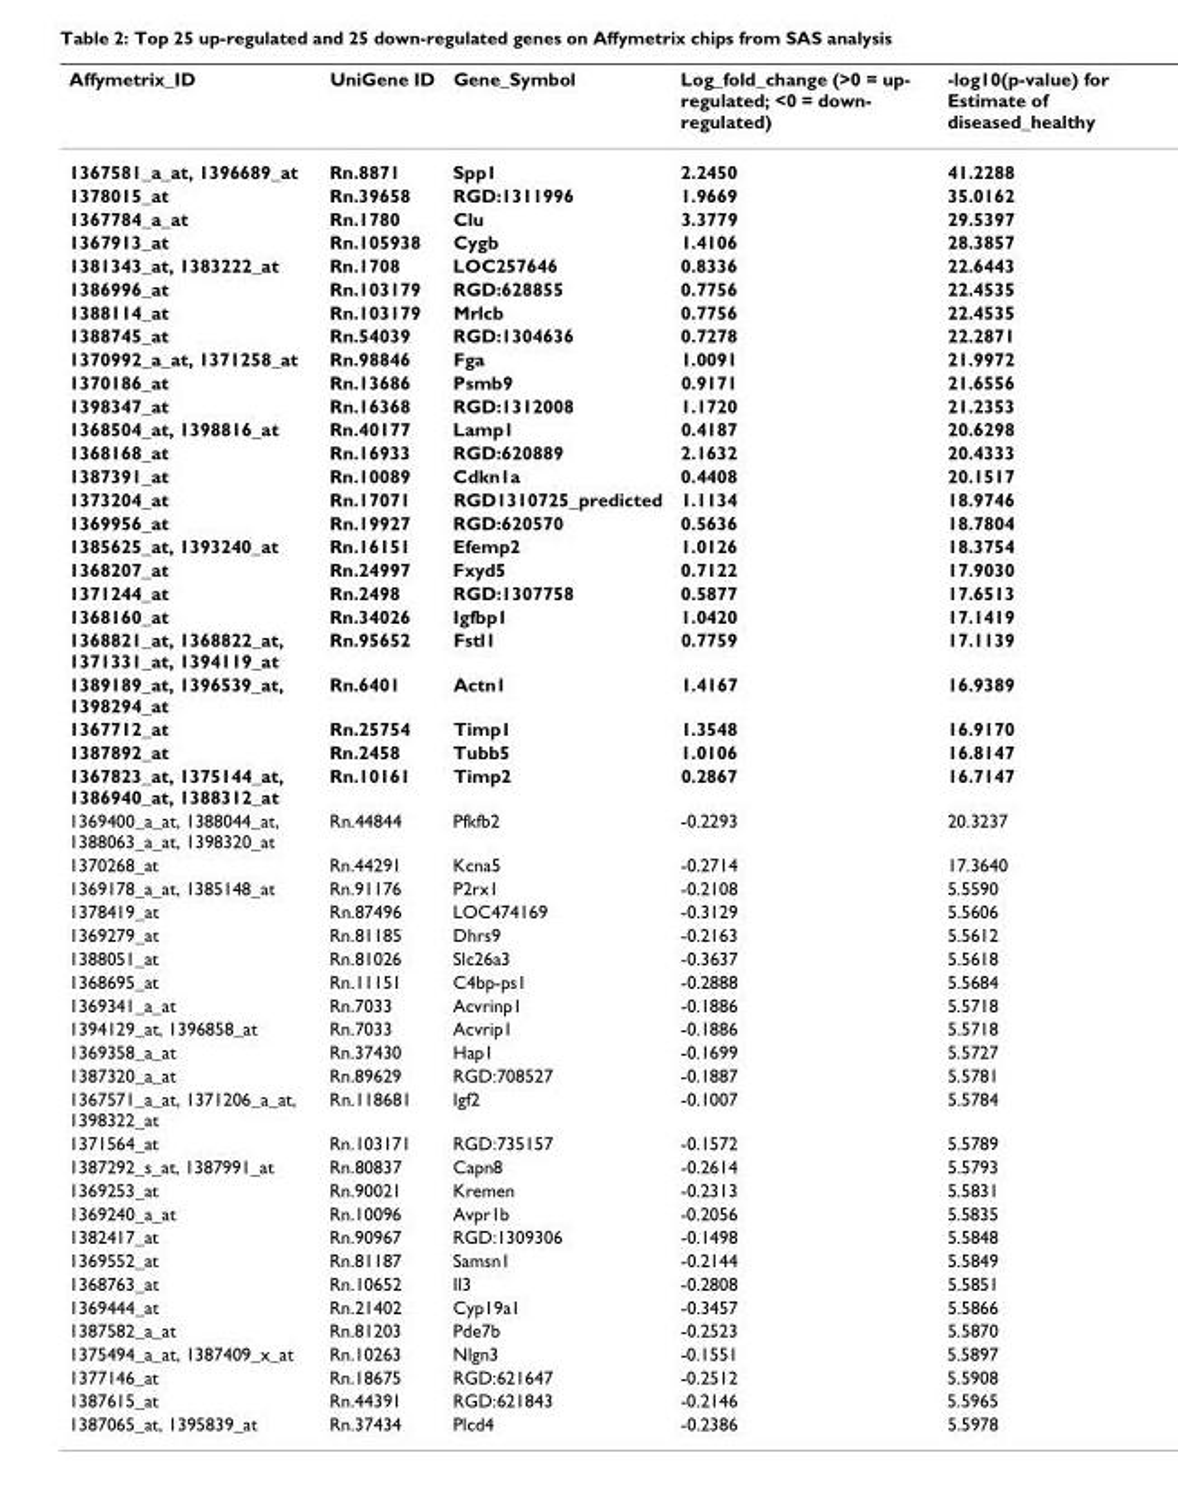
<table><thead><tr><td>Affymetrix_ID</td><td>UniGene ID</td><td>Gene_Symbol</td><td>Log_fold_change (&gt;0 = up- regulated; &lt;0 = down- regulated)</td><td>-log10(p-value) for Estimate of diseased_healthy</td></tr></thead><tbody><tr><td>1367581_a_at, 1396689_at</td><td>Rn.8871</td><td>Spp1</td><td>2.2450</td><td>41.2288</td></tr><tr><td>1378015_at</td><td>Rn.39658</td><td>RGD:1311996</td><td>1.9669</td><td>35.0162</td></tr><tr><td>1367784_a_at</td><td>Rn.1780</td><td>Clu</td><td>3.3779</td><td>29.5397</td></tr><tr><td>1367913_at</td><td>Rn.105938</td><td>Cygb</td><td>1.4106</td><td>28.3857</td></tr><tr><td>1381343_at, 1383222_at</td><td>Rn.1708</td><td>LOC257646</td><td>0.8336</td><td>22.6443</td></tr><tr><td>1386996_at</td><td>Rn.103179</td><td>RGD:628855</td><td>0.7756</td><td>22.4535</td></tr><tr><td>1388114_at</td><td>Rn.103179</td><td>Mrlcb</td><td>0.7756</td><td>22.4535</td></tr><tr><td>1388745_at</td><td>Rn.54039</td><td>RGD:1304636</td><td>0.7278</td><td>22.2871</td></tr><tr><td>1370992_a_at, 1371258_at</td><td>Rn.98846</td><td>Fga</td><td>1.0091</td><td>21.9972</td></tr><tr><td>1370186_at</td><td>Rn.13686</td><td>Psmb9</td><td>0.9171</td><td>21.6556</td></tr><tr><td>1398347_at</td><td>Rn.16368</td><td>RGD:1312008</td><td>1.1720</td><td>21.2353</td></tr><tr><td>1368504_at, 1398816_at</td><td>Rn.40177</td><td>Lamp1</td><td>0.4187</td><td>20.6298</td></tr><tr><td>1368168_at</td><td>Rn.16933</td><td>RGD:620889</td><td>2.1632</td><td>20.4333</td></tr><tr><td>1387391_at</td><td>Rn.10089</td><td>Cdkn1a</td><td>0.4408</td><td>20.1517</td></tr><tr><td>1373204_at</td><td>Rn.17071</td><td>RGD1310725_predicted</td><td>1.1134</td><td>18.9746</td></tr><tr><td>1369956_at</td><td>Rn.19927</td><td>RGD:620570</td><td>0.5636</td><td>18.7804</td></tr><tr><td>1385625_at, 1393240_at</td><td>Rn.16151</td><td>Efemp2</td><td>1.0126</td><td>18.3754</td></tr><tr><td>1368207_at</td><td>Rn.24997</td><td>Fxyd5</td><td>0.7122</td><td>17.9030</td></tr><tr><td>1371244_at</td><td>Rn.2498</td><td>RGD:1307758</td><td>0.5877</td><td>17.6513</td></tr><tr><td>1368160_at</td><td>Rn.34026</td><td>Igfbp1</td><td>1.0420</td><td>17.1419</td></tr><tr><td>1368821_at, 1368822_at, 1371331_at, 1394119_at</td><td>Rn.95652</td><td>Fstl1</td><td>0.7759</td><td>17.1139</td></tr><tr><td>1389189_at, 1396539_at, 1398294_at</td><td>Rn.6401</td><td>Actn1</td><td>1.4167</td><td>16.9389</td></tr><tr><td>1367712_at</td><td>Rn.25754</td><td>Timp1</td><td>1.3548</td><td>16.9170</td></tr><tr><td>1387892_at</td><td>Rn.2458</td><td>Tubb5</td><td>1.0106</td><td>16.8147</td></tr><tr><td>1367823_at, 1375144_at, 1386940_at, 1388312_at</td><td>Rn.10161</td><td>Timp2</td><td>0.2867</td><td>16.7147</td></tr><tr><td>1369400_a_at, 1388044_at, 1388063_a_at, 1398320_at</td><td>Rn.44844</td><td>Pfkfb2</td><td>-0.2293</td><td>20.3237</td></tr><tr><td>1370268_at</td><td>Rn.44291</td><td>Kcna5</td><td>-0.2714</td><td>17.3640</td></tr><tr><td>1369178_a_at, 1385148_at</td><td>Rn.91176</td><td>P2rx1</td><td>-0.2108</td><td>5.5590</td></tr><tr><td>1378419_at</td><td>Rn.87496</td><td>LOC474169</td><td>-0.3129</td><td>5.5606</td></tr><tr><td>1369279_at</td><td>Rn.81185</td><td>Dhrs9</td><td>-0.2163</td><td>5.5612</td></tr><tr><td>1388051_at</td><td>Rn.81026</td><td>Slc26a3</td><td>-0.3637</td><td>5.5618</td></tr><tr><td>1368695_at</td><td>Rn.11151</td><td>C4bp-ps1</td><td>-0.2888</td><td>5.5684</td></tr><tr><td>1369341_a_at</td><td>Rn.7033</td><td>Acvrinp1</td><td>-0.1886</td><td>5.5718</td></tr><tr><td>1394129_at, 1396858_at</td><td>Rn.7033</td><td>Acvrip1</td><td>-0.1886</td><td>5.5718</td></tr><tr><td>1369358_a_at</td><td>Rn.37430</td><td>Hap1</td><td>-0.1699</td><td>5.5727</td></tr><tr><td>1387320_a_at</td><td>Rn.89629</td><td>RGD:708527</td><td>-0.1887</td><td>5.5781</td></tr><tr><td>1367571_a_at, 1371206_a_at, 1398322_at</td><td>Rn.118681</td><td>Igf2</td><td>-0.1007</td><td>5.5784</td></tr><tr><td>1371564_at</td><td>Rn.103171</td><td>RGD:735157</td><td>-0.1572</td><td>5.5789</td></tr><tr><td>1387292_s_at, 1387991_at</td><td>Rn.80837</td><td>Capn8</td><td>-0.2614</td><td>5.5793</td></tr><tr><td>1369253_at</td><td>Rn.90021</td><td>Kremen</td><td>-0.2313</td><td>5.5831</td></tr><tr><td>1369240_a_at</td><td>Rn.10096</td><td>Avpr1b</td><td>-0.2056</td><td>5.5835</td></tr><tr><td>1382417_at</td><td>Rn.90967</td><td>RGD:1309306</td><td>-0.1498</td><td>5.5848</td></tr><tr><td>1369552_at</td><td>Rn.81187</td><td>Samsn1</td><td>-0.2144</td><td>5.5849</td></tr><tr><td>1368763_at</td><td>Rn.10652</td><td>Il3</td><td>-0.2808</td><td>5.5851</td></tr><tr><td>1369444_at</td><td>Rn.21402</td><td>Cyp19a1</td><td>-0.3457</td><td>5.5866</td></tr><tr><td>1387582_a_at</td><td>Rn.81203</td><td>Pde7b</td><td>-0.2523</td><td>5.5870</td></tr><tr><td>1375494_a_at, 1387409_x_at</td><td>Rn.10263</td><td>Nlgn3</td><td>-0.1551</td><td>5.5897</td></tr><tr><td>1377146_at</td><td>Rn.18675</td><td>RGD:621647</td><td>-0.2512</td><td>5.5908</td></tr><tr><td>1387615_at</td><td>Rn.44391</td><td>RGD:621843</td><td>-0.2146</td><td>5.5965</td></tr><tr><td>1387065_at, 1395839_at</td><td>Rn.37434</td><td>Plcd4</td><td>-0.2386</td><td>5.5978</td></tr></tbody></table>